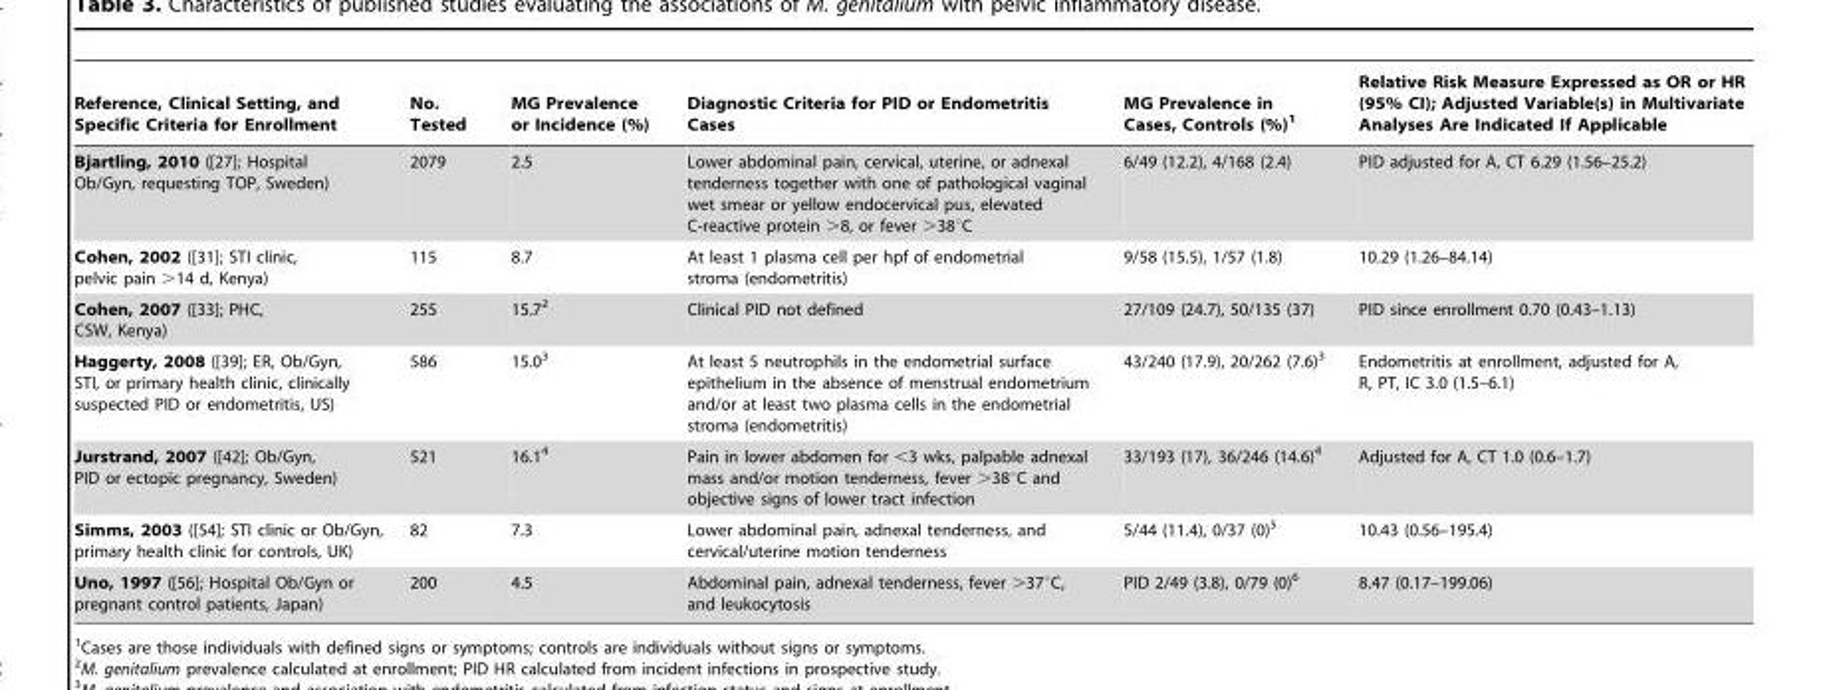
<table><thead><tr><td>Reference, Clinical Setting, and Specific Criteria for Enrollment</td><td>No. Tested</td><td>MG Prevalence or Incidence (%)</td><td>Diagnostic Criteria for PID or Endometritis Cases</td><td>MG Prevalence in Cases, Controls (%)<sup>1</sup></td><td>Relative Risk Measure Expressed as OR or HR (95% CI); Adjusted Variable(s) in Multivariate Analyses Are Indicated If Applicable</td></tr></thead><tbody><tr><td>Bjartling, 2010 ([27]; Hospital Ob/Gyn, requesting TOP, Sweden)</td><td>2079</td><td>2.5</td><td>Lower abdominal pain, cervical, uterine, or adnexal tenderness together with one of pathological vaginal wet smear or yellow endocervical pus, elevated C-reactive protein &gt;8, or fever &gt;38°C</td><td>6/49 (12.2), 4/168 (2.4)</td><td>PID adjusted for A, CT 6.29 (1.56–25.2)</td></tr><tr><td>Cohen, 2002 ([31]; STI clinic, pelvic pain &gt;14 d, Kenya)</td><td>115</td><td>8.7</td><td>At least 1 plasma cell per hpf of endometrial stroma (endometritis)</td><td>9/58 (15.5), 1/57 (1.8)</td><td>10.29 (1.26–84.14)</td></tr><tr><td>Cohen, 2007 ([33]; PHC, CSW, Kenya)</td><td>255</td><td>15.7<sup>2</sup></td><td>Clinical PID not defined</td><td>27/109 (24.7), 50/135 (37)</td><td>PID since enrollment 0.70 (0.43–1.13)</td></tr><tr><td>Haggerty, 2008 ([39]; ER, Ob/Gyn, STI, or primary health clinic, clinically suspected PID or endometritis, US)</td><td>586</td><td>15.0<sup>3</sup></td><td>At least 5 neutrophils in the endometrial surface epithelium in the absence of menstrual endometrium and/or at least two plasma cells in the endometrial stroma (endometritis)</td><td>43/240 (17.9), 20/262 (7.6)<sup>3</sup></td><td>Endometritis at enrollment, adjusted for A, R, PT, IC 3.0 (1.5–6.1)</td></tr><tr><td>Jurstrand, 2007 ([42]; Ob/Gyn, PID or ectopic pregnancy, Sweden)</td><td>521</td><td>16.1<sup>4</sup></td><td>Pain in lower abdomen for &lt;3 wks, palpable adnexal mass and/or motion tenderness, fever &gt;38°C and objective signs of lower tract infection</td><td>33/193 (17), 36/246 (14.6)<sup>4</sup></td><td>Adjusted for A, CT 1.0 (0.6–1.7)</td></tr><tr><td>Simms, 2003 ([54]; STI clinic or Ob/Gyn, primary health clinic for controls, UK)</td><td>82</td><td>7.3</td><td>Lower abdominal pain, adnexal tenderness, and cervical/uterine motion tenderness</td><td>5/44 (11.4), 0/37 (0)<sup>5</sup></td><td>10.43 (0.56–195.4)</td></tr><tr><td>Uno, 1997 ([56]; Hospital Ob/Gyn or pregnant control patients, Japan)</td><td>200</td><td>4.5</td><td>Abdominal pain, adnexal tenderness, fever &gt;37°C, and leukocytosis</td><td>PID 2/49 (3.8), 0/79 (0)<sup>6</sup></td><td>8.47 (0.17–199.06)</td></tr></tbody></table>